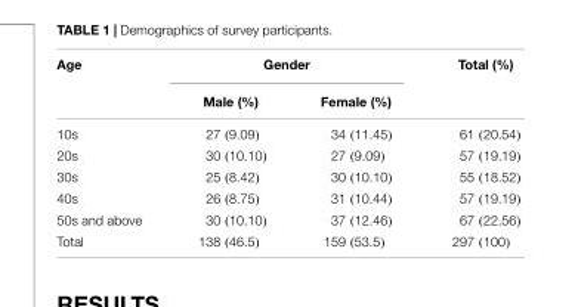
<table><thead><tr><td rowspan="2">Age</td><td colspan="2">Gender</td><td rowspan="2">Total (%)</td></tr><tr><td>Male (%)</td><td>Female (%)</td></tr></thead><tbody><tr><td>10s</td><td>27 (9.09)</td><td>34 (11.45)</td><td>61 (20.54)</td></tr><tr><td>20s</td><td>30 (10.10)</td><td>27 (9.09)</td><td>57 (19.19)</td></tr><tr><td>30s</td><td>25 (8.42)</td><td>30 (10.10)</td><td>55 (18.52)</td></tr><tr><td>40s</td><td>26 (8.75)</td><td>31 (10.44)</td><td>57 (19.19)</td></tr><tr><td>50s and above</td><td>30 (10.10)</td><td>37 (12.46)</td><td>67 (22.56)</td></tr><tr><td>Total</td><td>138 (46.5)</td><td>159 (53.5)</td><td>297 (100)</td></tr></tbody></table>